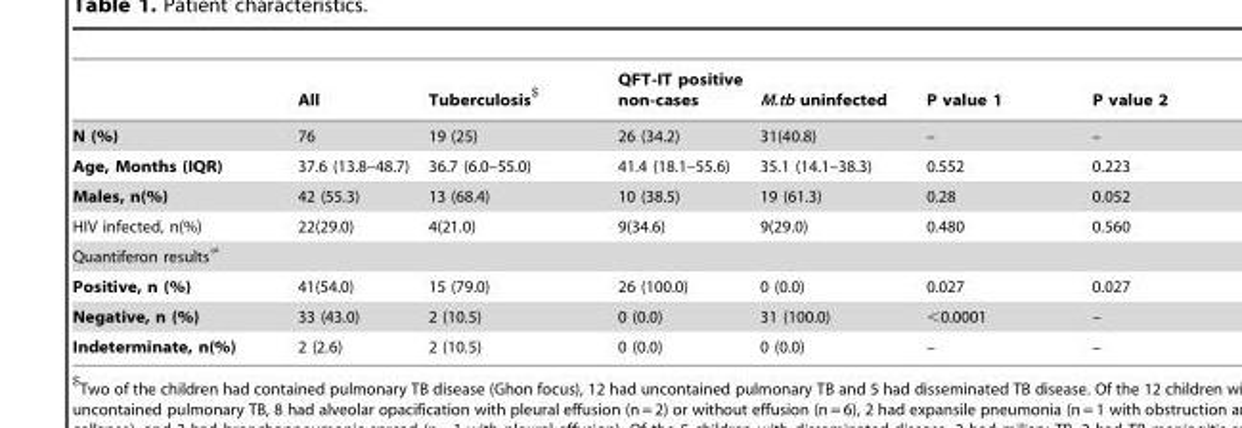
<table><thead><tr><td></td><td>All</td><td>Tuberculosis$</td><td>QFT-IT positive non-cases</td><td>M.tb uninfected</td><td>P value 1</td><td>P value 2</td></tr></thead><tbody><tr><td>N (%)</td><td>76</td><td>19 (25)</td><td>26 (34.2)</td><td>31(40.8)</td><td>–</td><td>–</td></tr><tr><td>Age, Months (IQR)</td><td>37.6 (13.8–48.7)</td><td>36.7 (6.0–55.0)</td><td>41.4 (18.1–55.6)</td><td>35.1 (14.1–38.3)</td><td>0.552</td><td>0.223</td></tr><tr><td>Males, n(%)</td><td>42 (55.3)</td><td>13 (68.4)</td><td>10 (38.5)</td><td>19 (61.3)</td><td>0.28</td><td>0.052</td></tr><tr><td>HIV infected, n(%)</td><td>22(29.0)</td><td>4(21.0)</td><td>9(34.6)</td><td>9(29.0)</td><td>0.480</td><td>0.560</td></tr><tr><td colspan="7">Quantiferon results≠</td></tr><tr><td>Positive, n (%)</td><td>41(54.0)</td><td>15 (79.0)</td><td>26 (100.0)</td><td>0 (0.0)</td><td>0.027</td><td>0.027</td></tr><tr><td>Negative, n (%)</td><td>33 (43.0)</td><td>2 (10.5)</td><td>0 (0.0)</td><td>31 (100.0)</td><td>&lt;0.0001</td><td>–</td></tr><tr><td>Indeterminate, n(%)</td><td>2 (2.6)</td><td>2 (10.5)</td><td>0 (0.0)</td><td>0 (0.0)</td><td>–</td><td>–</td></tr></tbody></table>